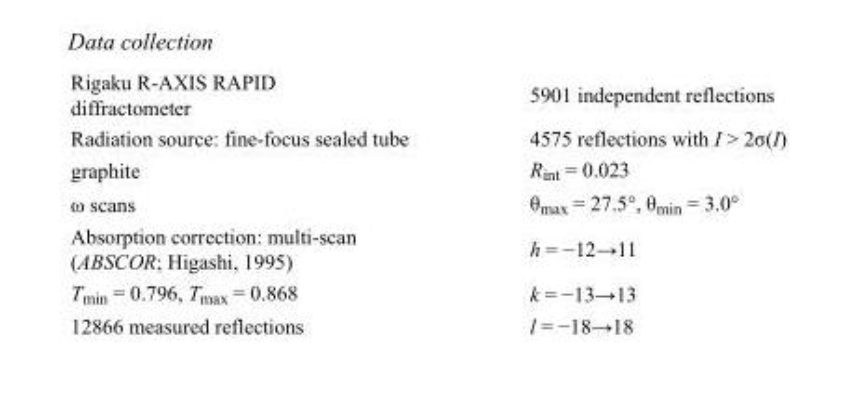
<table><tbody><tr><td>Rigaku R-AXIS RAPID diffractometer</td><td>5901 independent reflections</td></tr><tr><td>Radiation source: fine-focus sealed tube</td><td>4575 reflections with I &gt; 2σ(I)</td></tr><tr><td>graphite</td><td>R<sub>int</sub> = 0.023</td></tr><tr><td>ω scans</td><td>θ<sub>max</sub> = 27.5°, θ<sub>min</sub> = 3.0°</td></tr><tr><td>Absorption correction: multi-scan (ABSCOR; Higashi, 1995)</td><td>h = −12→11</td></tr><tr><td>T<sub>min</sub> = 0.796, T<sub>max</sub> = 0.868</td><td>k = −13→13</td></tr><tr><td>12866 measured reflections</td><td>l = −18→18</td></tr></tbody></table>